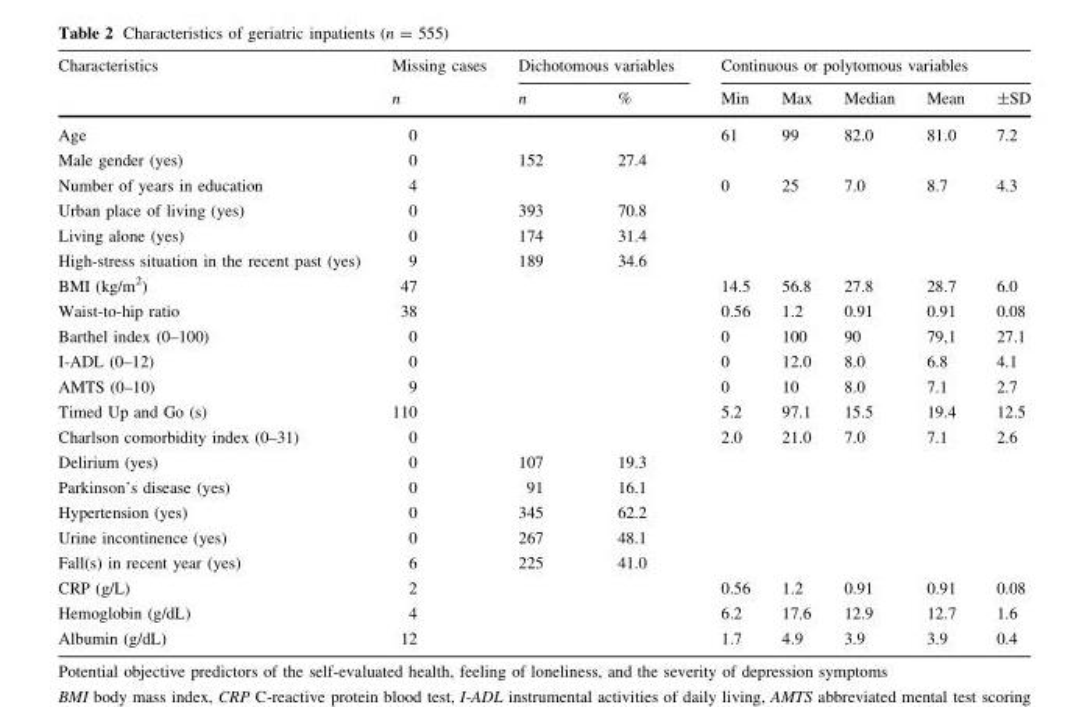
<table><thead><tr><td rowspan="2">Characteristics</td><td rowspan="2">Missing cases n</td><td colspan="2">Dichotomous variables</td><td colspan="5">Continuous or polytomous variables</td></tr><tr><td>n</td><td>%</td><td>Min</td><td>Max</td><td>Median</td><td>Mean</td><td>±SD</td></tr></thead><tbody><tr><td>Age</td><td>0</td><td></td><td></td><td>61</td><td>99</td><td>82.0</td><td>81.0</td><td>7.2</td></tr><tr><td>Male gender (yes)</td><td>0</td><td>152</td><td>27.4</td><td></td><td></td><td></td><td></td><td></td></tr><tr><td>Number of years in education</td><td>4</td><td></td><td></td><td>0</td><td>25</td><td>7.0</td><td>8.7</td><td>4.3</td></tr><tr><td>Urban place of living (yes)</td><td>0</td><td>393</td><td>70.8</td><td></td><td></td><td></td><td></td><td></td></tr><tr><td>Living alone (yes)</td><td>0</td><td>174</td><td>31.4</td><td></td><td></td><td></td><td></td><td></td></tr><tr><td>High-stress situation in the recent past (yes)</td><td>9</td><td>189</td><td>34.6</td><td></td><td></td><td></td><td></td><td></td></tr><tr><td>BMI (kg/m<sup>2</sup>)</td><td>47</td><td></td><td></td><td>14.5</td><td>56.8</td><td>27.8</td><td>28.7</td><td>6.0</td></tr><tr><td>Waist-to-hip ratio</td><td>38</td><td></td><td></td><td>0.56</td><td>1.2</td><td>0.91</td><td>0.91</td><td>0.08</td></tr><tr><td>Barthel index (0–100)</td><td>0</td><td></td><td></td><td>0</td><td>100</td><td>90</td><td>79,1</td><td>27.1</td></tr><tr><td>I-ADL (0–12)</td><td>0</td><td></td><td></td><td>0</td><td>12.0</td><td>8.0</td><td>6.8</td><td>4.1</td></tr><tr><td>AMTS (0–10)</td><td>9</td><td></td><td></td><td>0</td><td>10</td><td>8.0</td><td>7.1</td><td>2.7</td></tr><tr><td>Timed Up and Go (s)</td><td>110</td><td></td><td></td><td>5.2</td><td>97.1</td><td>15.5</td><td>19.4</td><td>12.5</td></tr><tr><td>Charlson comorbidity index (0–31)</td><td>0</td><td></td><td></td><td>2.0</td><td>21.0</td><td>7.0</td><td>7.1</td><td>2.6</td></tr><tr><td>Delirium (yes)</td><td>0</td><td>107</td><td>19.3</td><td></td><td></td><td></td><td></td><td></td></tr><tr><td>Parkinson’s disease (yes)</td><td>0</td><td>91</td><td>16.1</td><td></td><td></td><td></td><td></td><td></td></tr><tr><td>Hypertension (yes)</td><td>0</td><td>345</td><td>62.2</td><td></td><td></td><td></td><td></td><td></td></tr><tr><td>Urine incontinence (yes)</td><td>0</td><td>267</td><td>48.1</td><td></td><td></td><td></td><td></td><td></td></tr><tr><td>Fall(s) in recent year (yes)</td><td>6</td><td>225</td><td>41.0</td><td></td><td></td><td></td><td></td><td></td></tr><tr><td>CRP (g/L)</td><td>2</td><td></td><td></td><td>0.56</td><td>1.2</td><td>0.91</td><td>0.91</td><td>0.08</td></tr><tr><td>Hemoglobin (g/dL)</td><td>4</td><td></td><td></td><td>6.2</td><td>17.6</td><td>12.9</td><td>12.7</td><td>1.6</td></tr><tr><td>Albumin (g/dL)</td><td>12</td><td></td><td></td><td>1.7</td><td>4.9</td><td>3.9</td><td>3.9</td><td>0.4</td></tr></tbody></table>